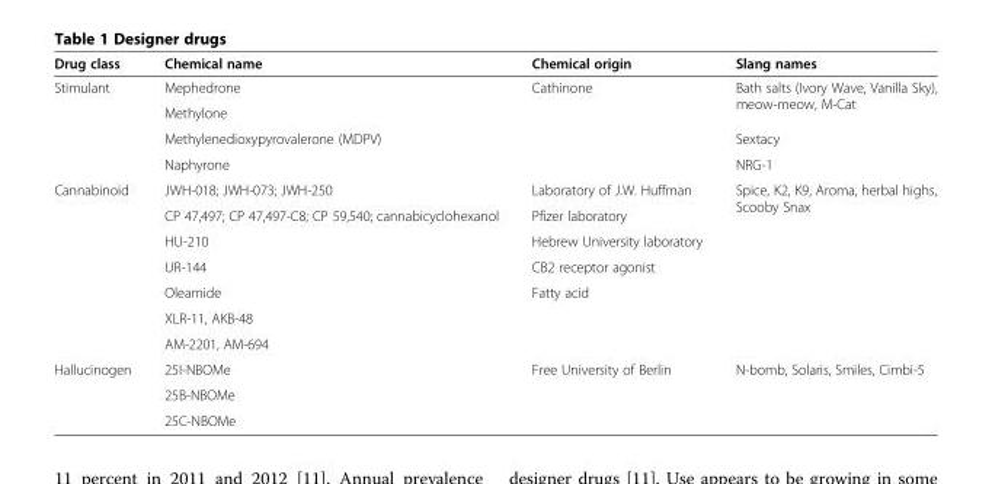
<table><thead><tr><td>Drug class</td><td>Chemical name</td><td>Chemical origin</td><td>Slang names</td></tr></thead><tbody><tr><td rowspan="4">Stimulant</td><td>Mephedrone</td><td rowspan="4">Cathinone</td><td rowspan="2">Bath salts (Ivory Wave, Vanilla Sky), meow-meow, M-Cat</td></tr><tr><td>Methylone</td></tr><tr><td>Methylenedioxypyrovalerone (MDPV)</td><td>Sextacy</td></tr><tr><td>Naphyrone</td><td>NRG-1</td></tr><tr><td rowspan="7">Cannabinoid</td><td>JWH-018; JWH-073; JWH-250</td><td>Laboratory of J.W. Huffman</td><td rowspan="7">Spice, K2, K9, Aroma, herbal highs, Scooby Snax</td></tr><tr><td>CP 47,497; CP 47,497-C8; CP 59,540; cannabicyclohexanol</td><td>Pfizer laboratory</td></tr><tr><td>HU-210</td><td>Hebrew University laboratory</td></tr><tr><td>UR-144</td><td>CB2 receptor agonist</td></tr><tr><td>Oleamide</td><td>Fatty acid</td></tr><tr><td>XLR-11, AKB-48</td><td></td></tr><tr><td>AM-2201, AM-694</td><td></td></tr><tr><td rowspan="3">Hallucinogen</td><td>25I-NBOMe</td><td>Free University of Berlin</td><td rowspan="3">N-bomb, Solaris, Smiles, Cimbi-5</td></tr><tr><td>25B-NBOMe</td><td></td></tr><tr><td>25C-NBOMe</td><td></td></tr></tbody></table>